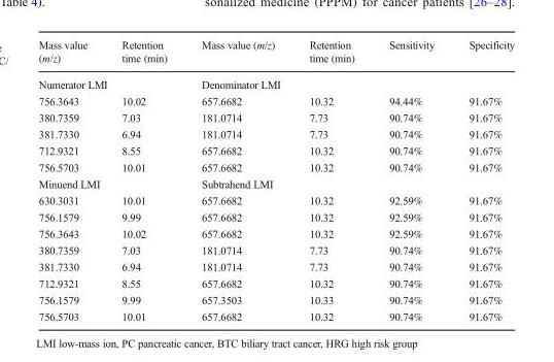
<table><thead><tr><td>Mass value (m/z)</td><td>Retention time (min)</td><td>Mass value (m/z)</td><td>Retention time (min)</td><td>Sensitivity</td><td>Specificity</td></tr></thead><tbody><tr><td colspan="2">Numerator LMI</td><td colspan="2">Denominator LMI</td><td></td><td></td></tr><tr><td>756.3643</td><td>10.02</td><td>657.6682</td><td>10.32</td><td>94.44%</td><td>91.67%</td></tr><tr><td>380.7359</td><td>7.03</td><td>181.0714</td><td>7.73</td><td>90.74%</td><td>91.67%</td></tr><tr><td>381.7330</td><td>6.94</td><td>181.0714</td><td>7.73</td><td>90.74%</td><td>91.67%</td></tr><tr><td>712.9321</td><td>8.55</td><td>657.6682</td><td>10.32</td><td>90.74%</td><td>91.67%</td></tr><tr><td>756.5703</td><td>10.01</td><td>657.6682</td><td>10.32</td><td>90.74%</td><td>91.67%</td></tr><tr><td colspan="2">Minuend LMI</td><td colspan="2">Subtrahend LMI</td><td></td><td></td></tr><tr><td>630.3031</td><td>10.01</td><td>657.6682</td><td>10.32</td><td>92.59%</td><td>91.67%</td></tr><tr><td>756.1579</td><td>9.99</td><td>657.6682</td><td>10.32</td><td>92.59%</td><td>91.67%</td></tr><tr><td>756.3643</td><td>10.02</td><td>657.6682</td><td>10.32</td><td>92.59%</td><td>91.67%</td></tr><tr><td>380.7359</td><td>7.03</td><td>181.0714</td><td>7.73</td><td>90.74%</td><td>91.67%</td></tr><tr><td>381.7330</td><td>6.94</td><td>181.0714</td><td>7.73</td><td>90.74%</td><td>91.67%</td></tr><tr><td>712.9321</td><td>8.55</td><td>657.6682</td><td>10.32</td><td>90.74%</td><td>91.67%</td></tr><tr><td>756.1579</td><td>9.99</td><td>657.3503</td><td>10.33</td><td>90.74%</td><td>91.67%</td></tr><tr><td>756.5703</td><td>10.01</td><td>657.6682</td><td>10.32</td><td>90.74%</td><td>91.67%</td></tr></tbody></table>